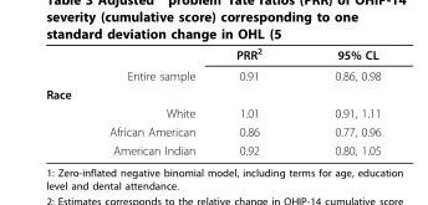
<table><thead><tr><td></td><td>PRR<sup>2</sup></td><td>95% CL</td></tr></thead><tbody><tr><td>Entire sample</td><td>0.91</td><td>0.86, 0.98</td></tr><tr><td colspan="3">Race</td></tr><tr><td>White</td><td>1.01</td><td>0.91, 1.11</td></tr><tr><td>African American</td><td>0.86</td><td>0.77, 0.96</td></tr><tr><td>American Indian</td><td>0.92</td><td>0.80, 1.05</td></tr></tbody></table>